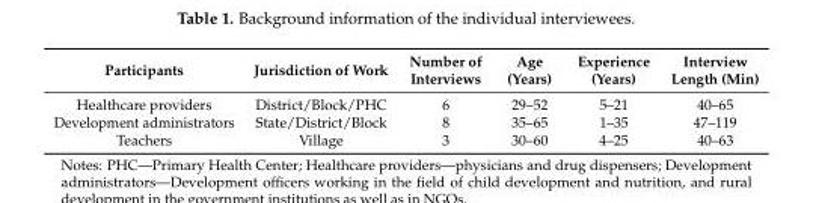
<table><thead><tr><td>Participants</td><td>Jurisdiction of Work</td><td>Number of Interviews</td><td>Age (Years)</td><td>Experience (Years)</td><td>Interview Length (Min)</td></tr></thead><tbody><tr><td>Healthcare providers</td><td>District/Block/PHC</td><td>6</td><td>29–52</td><td>5–21</td><td>40–65</td></tr><tr><td>Development administrators</td><td>State/District/Block</td><td>8</td><td>35–65</td><td>1–35</td><td>47–119</td></tr><tr><td>Teachers</td><td>Village</td><td>3</td><td>30–60</td><td>4–25</td><td>40–63</td></tr></tbody></table>